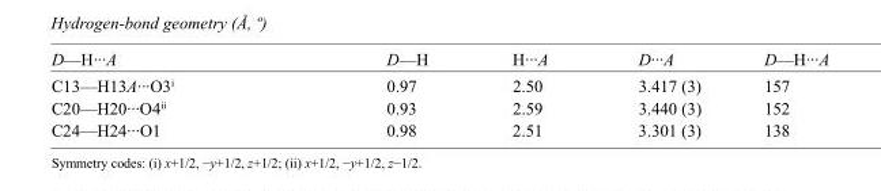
<table><tbody><tr><td>D—H···A</td><td>D—H</td><td>H···A</td><td>D···A</td><td>D—H···A</td></tr><tr><td>C13—H13A···O3<sup>i</sup></td><td>0.97</td><td>2.50</td><td>3.417 (3)</td><td>157</td></tr><tr><td>C20—H20···O4<sup>ii</sup></td><td>0.93</td><td>2.59</td><td>3.440 (3)</td><td>152</td></tr><tr><td>C24—H24···O1</td><td>0.98</td><td>2.51</td><td>3.301 (3)</td><td>138</td></tr></tbody></table>